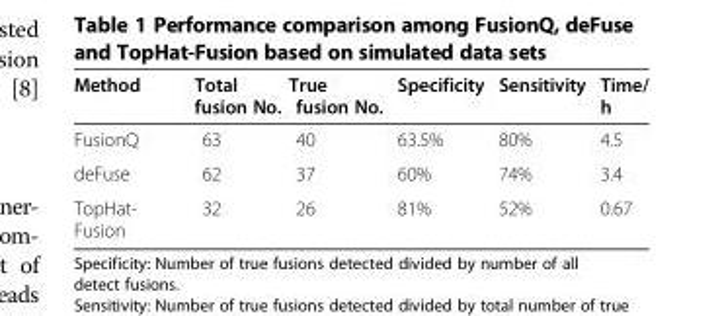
<table><thead><tr><td>Method</td><td>Total fusion No.</td><td>True fusion No.</td><td>Specificity</td><td>Sensitivity</td><td>Time/ h</td></tr></thead><tbody><tr><td>FusionQ</td><td>63</td><td>40</td><td>63.5%</td><td>80%</td><td>4.5</td></tr><tr><td>deFuse</td><td>62</td><td>37</td><td>60%</td><td>74%</td><td>3.4</td></tr><tr><td>TopHat- Fusion</td><td>32</td><td>26</td><td>81%</td><td>52%</td><td>0.67</td></tr></tbody></table>